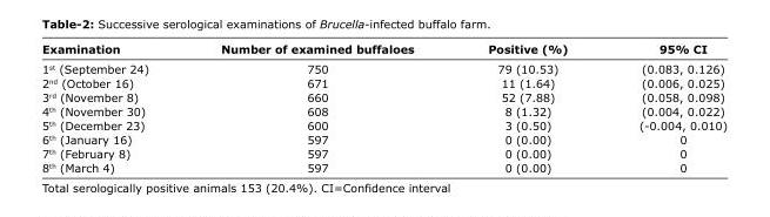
<table><thead><tr><td>Examination</td><td>Number of examined buffaloes</td><td>Positive (%)</td><td>95% CI</td></tr></thead><tbody><tr><td>1<sup>st</sup> (September 24)</td><td>750</td><td>79 (10.53)</td><td>(0.083, 0.126)</td></tr><tr><td>2<sup>nd</sup> (October 16)</td><td>671</td><td>11 (1.64)</td><td>(0.006, 0.025)</td></tr><tr><td>3<sup>rd</sup> (November 8)</td><td>660</td><td>52 (7.88)</td><td>(0.058, 0.098)</td></tr><tr><td>4<sup>th</sup> (November 30)</td><td>608</td><td>8 (1.32)</td><td>(0.004, 0.022)</td></tr><tr><td>5<sup>th</sup> (December 23)</td><td>600</td><td>3 (0.50)</td><td>(-0.004, 0.010)</td></tr><tr><td>6<sup>th</sup> (January 16)</td><td>597</td><td>0 (0.00)</td><td>0</td></tr><tr><td>7<sup>th</sup> (February 8)</td><td>597</td><td>0 (0.00)</td><td>0</td></tr><tr><td>8<sup>th</sup> (March 4)</td><td>597</td><td>0 (0.00)</td><td>0</td></tr></tbody></table>